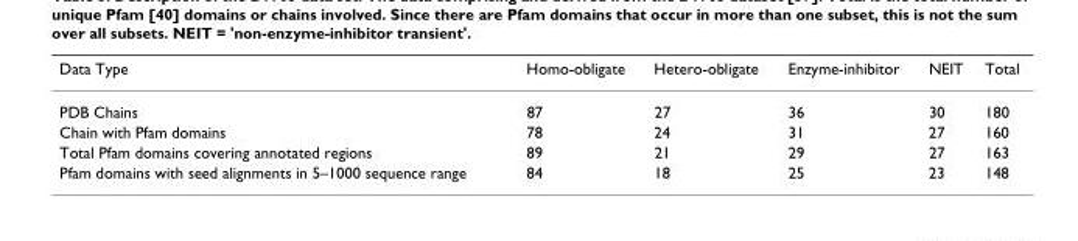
<table><thead><tr><td>Data Type</td><td>Homo-obligate</td><td>Hetero-obligate</td><td>Enzyme-inhibitor</td><td>NEIT</td><td>Total</td></tr></thead><tbody><tr><td>PDB Chains</td><td>87</td><td>27</td><td>36</td><td>30</td><td>180</td></tr><tr><td>Chain with Pfam domains</td><td>78</td><td>24</td><td>31</td><td>27</td><td>160</td></tr><tr><td>Total Pfam domains covering annotated regions</td><td>89</td><td>21</td><td>29</td><td>27</td><td>163</td></tr><tr><td>Pfam domains with seed alignments in 5–1000 sequence range</td><td>84</td><td>18</td><td>25</td><td>23</td><td>148</td></tr></tbody></table>